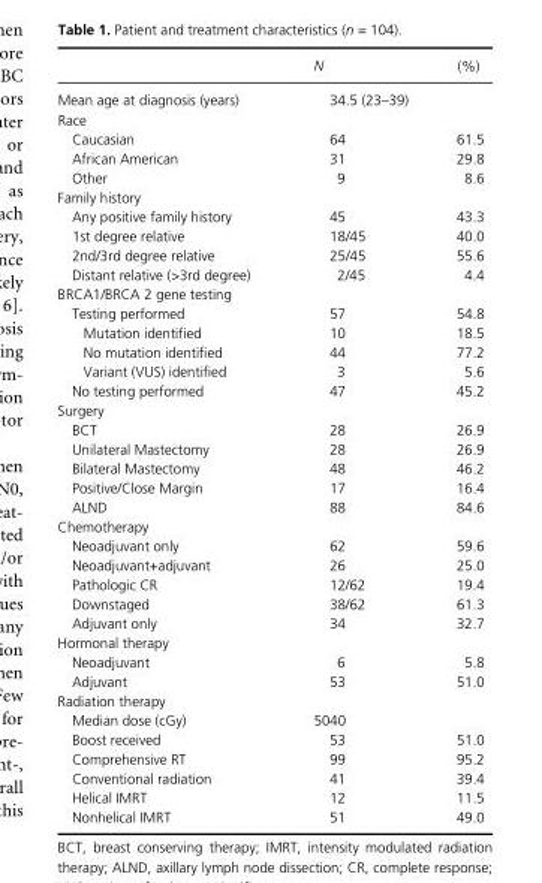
<table><thead><tr><td></td><td>N</td><td>(%)</td></tr></thead><tbody><tr><td>Mean age at diagnosis (years)</td><td>34.5 (23–39)</td><td></td></tr><tr><td colspan="3">Race</td></tr><tr><td>Caucasian</td><td>64</td><td>61.5</td></tr><tr><td>African American</td><td>31</td><td>29.8</td></tr><tr><td>Other</td><td>9</td><td>8.6</td></tr><tr><td colspan="3">Family history</td></tr><tr><td>Any positive family history</td><td>45</td><td>43.3</td></tr><tr><td>1st degree relative</td><td>18/45</td><td>40.0</td></tr><tr><td>2nd/3rd degree relative</td><td>25/45</td><td>55.6</td></tr><tr><td>Distant relative (&gt;3rd degree)</td><td>2/45</td><td>4.4</td></tr><tr><td colspan="3">BRCA1/BRCA 2 gene testing</td></tr><tr><td>Testing performed</td><td>57</td><td>54.8</td></tr><tr><td>Mutation identified</td><td>10</td><td>18.5</td></tr><tr><td>No mutation identified</td><td>44</td><td>77.2</td></tr><tr><td>Variant (VUS) identified</td><td>3</td><td>5.6</td></tr><tr><td>No testing performed</td><td>47</td><td>45.2</td></tr><tr><td colspan="3">Surgery</td></tr><tr><td>BCT</td><td>28</td><td>26.9</td></tr><tr><td>Unilateral Mastectomy</td><td>28</td><td>26.9</td></tr><tr><td>Bilateral Mastectomy</td><td>48</td><td>46.2</td></tr><tr><td>Positive/Close Margin</td><td>17</td><td>16.4</td></tr><tr><td>ALND</td><td>88</td><td>84.6</td></tr><tr><td colspan="3">Chemotherapy</td></tr><tr><td>Neoadjuvant only</td><td>62</td><td>59.6</td></tr><tr><td>Neoadjuvant+adjuvant</td><td>26</td><td>25.0</td></tr><tr><td>Pathologic CR</td><td>12/62</td><td>19.4</td></tr><tr><td>Downstaged</td><td>38/62</td><td>61.3</td></tr><tr><td>Adjuvant only</td><td>34</td><td>32.7</td></tr><tr><td colspan="3">Hormonal therapy</td></tr><tr><td>Neoadjuvant</td><td>6</td><td>5.8</td></tr><tr><td>Adjuvant</td><td>53</td><td>51.0</td></tr><tr><td colspan="3">Radiation therapy</td></tr><tr><td>Median dose (cGy)</td><td>5040</td><td></td></tr><tr><td>Boost received</td><td>53</td><td>51.0</td></tr><tr><td>Comprehensive RT</td><td>99</td><td>95.2</td></tr><tr><td>Conventional radiation</td><td>41</td><td>39.4</td></tr><tr><td>Helical IMRT</td><td>12</td><td>11.5</td></tr><tr><td>Nonhelical IMRT</td><td>51</td><td>49.0</td></tr></tbody></table>